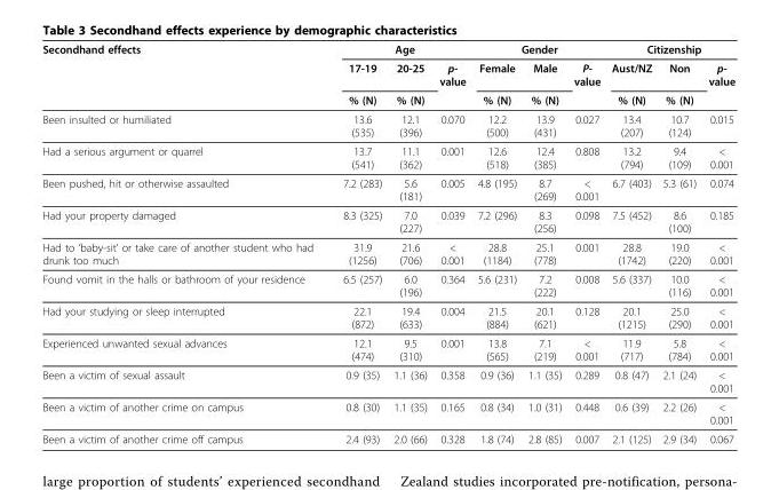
<table><thead><tr><td rowspan="3">Secondhand effects</td><td colspan="3">Age</td><td colspan="3">Gender</td><td colspan="3">Citizenship</td></tr><tr><td rowspan="2">17-19 % (N)</td><td rowspan="2">20-25 % (N)</td><td rowspan="2">p- value</td><td rowspan="2">Female % (N)</td><td rowspan="2">Male % (N)</td><td rowspan="2">P- value</td><td rowspan="2">Aust/NZ % (N)</td><td rowspan="2">Non % (N)</td><td rowspan="2">p- value</td></tr><tr></tr></thead><tbody><tr><td>Been insulted or humiliated</td><td>13.6 (535)</td><td>12.1 (396)</td><td>0.070</td><td>12.2 (500)</td><td>13.9 (431)</td><td>0.027</td><td>13.4 (207)</td><td>10.7 (124)</td><td>0.015</td></tr><tr><td>Had a serious argument or quarrel</td><td>13.7 (541)</td><td>11.1 (362)</td><td>0.001</td><td>12.6 (518)</td><td>12.4 (385)</td><td>0.808</td><td>13.2 (794)</td><td>9.4 (109)</td><td>&lt; 0.001</td></tr><tr><td>Been pushed, hit or otherwise assaulted</td><td>7.2 (283)</td><td>5.6 (181)</td><td>0.005</td><td>4.8 (195)</td><td>8.7 (269)</td><td>&lt; 0.001</td><td>6.7 (403)</td><td>5.3 (61)</td><td>0.074</td></tr><tr><td>Had your property damaged</td><td>8.3 (325)</td><td>7.0 (227)</td><td>0.039</td><td>7.2 (296)</td><td>8.3 (256)</td><td>0.098</td><td>7.5 (452)</td><td>8.6 (100)</td><td>0.185</td></tr><tr><td>Had to ‘baby-sit’ or take care of another student who had drunk too much</td><td>31.9 (1256)</td><td>21.6 (706)</td><td>&lt; 0.001</td><td>28.8 (1184)</td><td>25.1 (778)</td><td>0.001</td><td>28.8 (1742)</td><td>19.0 (220)</td><td>&lt; 0.001</td></tr><tr><td>Found vomit in the halls or bathroom of your residence</td><td>6.5 (257)</td><td>6.0 (196)</td><td>0.364</td><td>5.6 (231)</td><td>7.2 (222)</td><td>0.008</td><td>5.6 (337)</td><td>10.0 (116)</td><td>&lt; 0.001</td></tr><tr><td>Had your studying or sleep interrupted</td><td>22.1 (872)</td><td>19.4 (633)</td><td>0.004</td><td>21.5 (884)</td><td>20.1 (621)</td><td>0.128</td><td>20.1 (1215)</td><td>25.0 (290)</td><td>&lt; 0.001</td></tr><tr><td>Experienced unwanted sexual advances</td><td>12.1 (474)</td><td>9.5 (310)</td><td>0.001</td><td>13.8 (565)</td><td>7.1 (219)</td><td>&lt; 0.001</td><td>11.9 (717)</td><td>5.8 (784)</td><td>&lt; 0.001</td></tr><tr><td>Been a victim of sexual assault</td><td>0.9 (35)</td><td>1.1 (36)</td><td>0.358</td><td>0.9 (36)</td><td>1.1 (35)</td><td>0.289</td><td>0.8 (47)</td><td>2.1 (24)</td><td>&lt; 0.001</td></tr><tr><td>Been a victim of another crime on campus</td><td>0.8 (30)</td><td>1.1 (35)</td><td>0.165</td><td>0.8 (34)</td><td>1.0 (31)</td><td>0.448</td><td>0.6 (39)</td><td>2.2 (26)</td><td>&lt; 0.001</td></tr><tr><td>Been a victim of another crime off campus</td><td>2.4 (93)</td><td>2.0 (66)</td><td>0.328</td><td>1.8 (74)</td><td>2.8 (85)</td><td>0.007</td><td>2.1 (125)</td><td>2.9 (34)</td><td>0.067</td></tr></tbody></table>